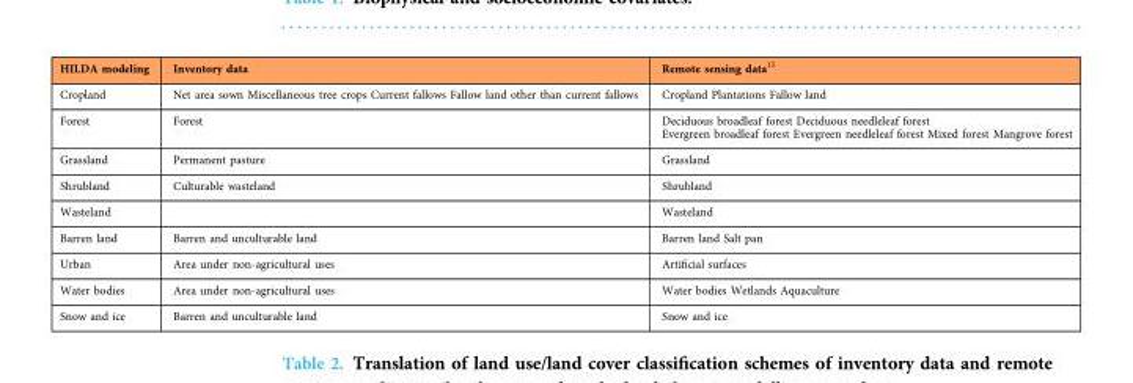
<table><thead><tr><td>HILDA modeling</td><td>Inventory data</td><td>Remote sensing data<sup>15</sup></td></tr></thead><tbody><tr><td>Cropland</td><td>Net area sown Miscellaneous tree crops Current fallows Fallow land other than current fallows</td><td>Cropland Plantations Fallow land</td></tr><tr><td>Forest</td><td>Forest</td><td>Deciduous broadleaf forest Deciduous needleleaf forest Evergreen broadleaf forest Evergreen needleleaf forest Mixed forest Mangrove forest</td></tr><tr><td>Grassland</td><td>Permanent pasture</td><td>Grassland</td></tr><tr><td>Shrubland</td><td>Culturable wasteland</td><td>Shrubland</td></tr><tr><td>Wasteland</td><td></td><td>Wasteland</td></tr><tr><td>Barren land</td><td>Barren and unculturable land</td><td>Barren land Salt pan</td></tr><tr><td>Urban</td><td>Area under non-agricultural uses</td><td>Artificial surfaces</td></tr><tr><td>Water bodies</td><td>Area under non-agricultural uses</td><td>Water bodies Wetlands Aquaculture</td></tr><tr><td>Snow and ice</td><td>Barren and unculturable land</td><td>Snow and ice</td></tr></tbody></table>